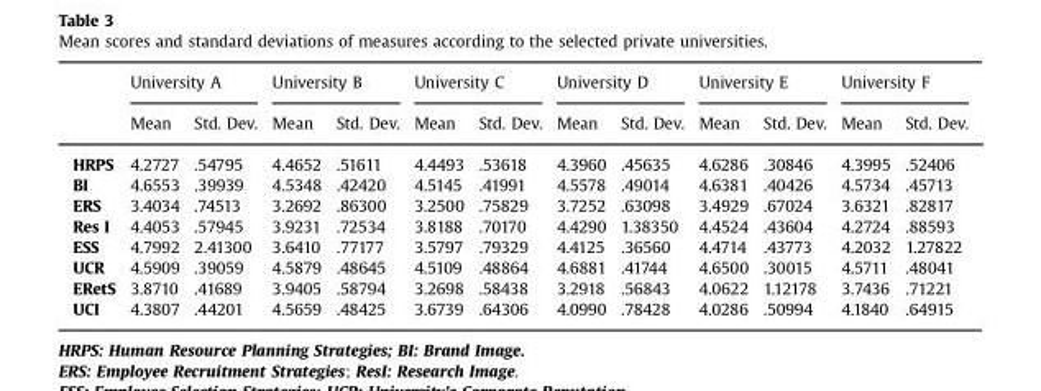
<table><thead><tr><td rowspan="2"></td><td colspan="2">University A</td><td colspan="2">University B</td><td colspan="2">University C</td><td colspan="2">University D</td><td colspan="2">University E</td><td colspan="2">University F</td></tr><tr><td>Mean</td><td>Std. Dev.</td><td>Mean</td><td>Std. Dev.</td><td>Mean</td><td>Std. Dev.</td><td>Mean</td><td>Std. Dev.</td><td>Mean</td><td>Std. Dev.</td><td>Mean</td><td>Std. Dev.</td></tr></thead><tbody><tr><td>HRPS</td><td>4.2727</td><td>.54795</td><td>4.4652</td><td>.51611</td><td>4.4493</td><td>.53618</td><td>4.3960</td><td>.45635</td><td>4.6286</td><td>.30846</td><td>4.3995</td><td>.52406</td></tr><tr><td>BI</td><td>4.6553</td><td>.39939</td><td>4.5348</td><td>.42420</td><td>4.5145</td><td>.41991</td><td>4.5578</td><td>.49014</td><td>4.6381</td><td>.40426</td><td>4.5734</td><td>.45713</td></tr><tr><td>ERS</td><td>3.4034</td><td>.74513</td><td>3.2692</td><td>.86300</td><td>3.2500</td><td>.75829</td><td>3.7252</td><td>.63098</td><td>3.4929</td><td>.67024</td><td>3.6321</td><td>.82817</td></tr><tr><td>Res I</td><td>4.4053</td><td>.57945</td><td>3.9231</td><td>.72534</td><td>3.8188</td><td>.70170</td><td>4.4290</td><td>1.38350</td><td>4.4524</td><td>.43604</td><td>4.2724</td><td>.88593</td></tr><tr><td>ESS</td><td>4.7992</td><td>2.41300</td><td>3.6410</td><td>.77177</td><td>3.5797</td><td>.79329</td><td>4.4125</td><td>.36560</td><td>4.4714</td><td>.43773</td><td>4.2032</td><td>1.27822</td></tr><tr><td>UCR</td><td>4.5909</td><td>.39059</td><td>4.5879</td><td>.48645</td><td>4.5109</td><td>.48864</td><td>4.6881</td><td>.41744</td><td>4.6500</td><td>.30015</td><td>4.5711</td><td>.48041</td></tr><tr><td>ERetS</td><td>3.8710</td><td>.41689</td><td>3.9405</td><td>.58794</td><td>3.2698</td><td>.58438</td><td>3.2918</td><td>.56843</td><td>4.0622</td><td>1.12178</td><td>3.7436</td><td>.71221</td></tr><tr><td>UCI</td><td>4.3807</td><td>.44201</td><td>4.5659</td><td>.48425</td><td>3.6739</td><td>.64306</td><td>4.0990</td><td>.78428</td><td>4.0286</td><td>.50994</td><td>4.1840</td><td>.64915</td></tr></tbody></table>